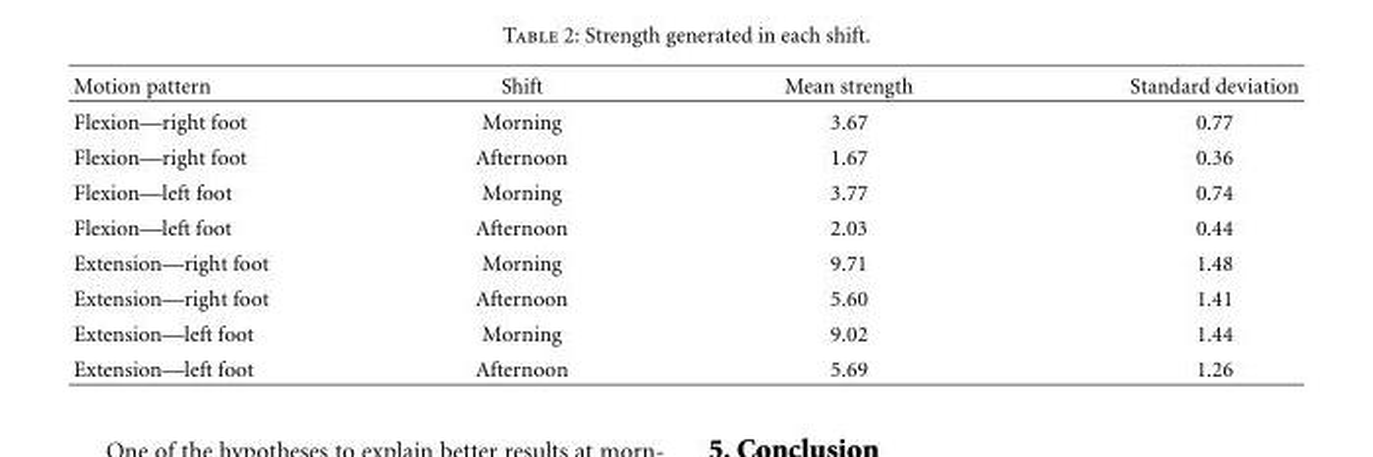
<table><thead><tr><td>Motion pattern</td><td>Shift</td><td>Mean strength</td><td>Standard deviation</td></tr></thead><tbody><tr><td>Flexion—right foot</td><td>Morning</td><td>3.67</td><td>0.77</td></tr><tr><td>Flexion—right foot</td><td>Afternoon</td><td>1.67</td><td>0.36</td></tr><tr><td>Flexion—left foot</td><td>Morning</td><td>3.77</td><td>0.74</td></tr><tr><td>Flexion—left foot</td><td>Afternoon</td><td>2.03</td><td>0.44</td></tr><tr><td>Extension—right foot</td><td>Morning</td><td>9.71</td><td>1.48</td></tr><tr><td>Extension—right foot</td><td>Afternoon</td><td>5.60</td><td>1.41</td></tr><tr><td>Extension—left foot</td><td>Morning</td><td>9.02</td><td>1.44</td></tr><tr><td>Extension—left foot</td><td>Afternoon</td><td>5.69</td><td>1.26</td></tr></tbody></table>